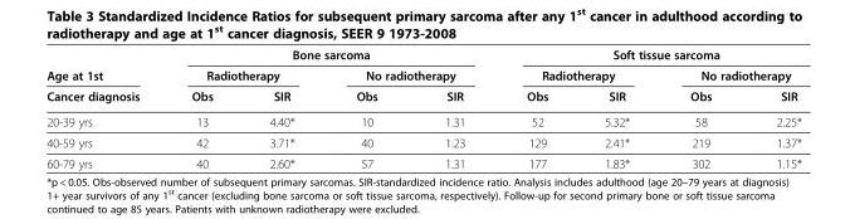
<table><thead><tr><td rowspan="3">Age at 1st Cancer diagnosis</td><td colspan="4">Bone sarcoma</td><td colspan="4">Soft tissue sarcoma</td></tr><tr><td colspan="2">Radiotherapy</td><td colspan="2">No radiotherapy</td><td colspan="2">Radiotherapy</td><td colspan="2">No radiotherapy</td></tr><tr><td>Obs</td><td>SIR</td><td>Obs</td><td>SIR</td><td>Obs</td><td>SIR</td><td>Obs</td><td>SIR</td></tr></thead><tbody><tr><td>20-39 yrs</td><td>13</td><td>4.40*</td><td>10</td><td>1.31</td><td>52</td><td>5.32*</td><td>58</td><td>2.25*</td></tr><tr><td>40-59 yrs</td><td>42</td><td>3.71*</td><td>40</td><td>1.23</td><td>129</td><td>2.41*</td><td>219</td><td>1.37*</td></tr><tr><td>60-79 yrs</td><td>40</td><td>2.60*</td><td>57</td><td>1.31</td><td>177</td><td>1.83*</td><td>302</td><td>1.15*</td></tr></tbody></table>